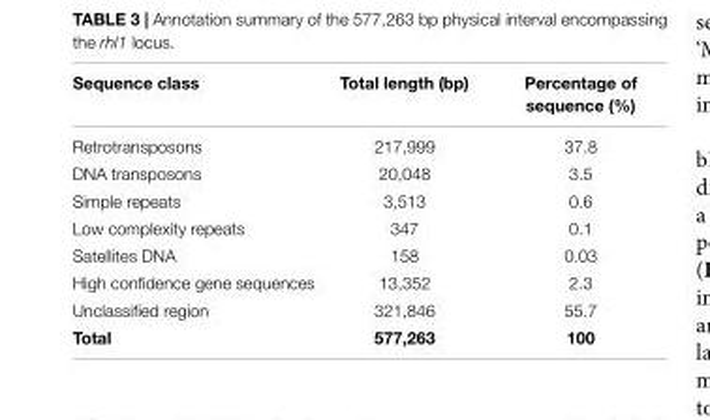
<table><thead><tr><td>Sequence class</td><td>Total length (bp)</td><td>Percentage of sequence (%)</td></tr></thead><tbody><tr><td>Retrotransposons</td><td>217,999</td><td>37.8</td></tr><tr><td>DNA transposons</td><td>20,048</td><td>3.5</td></tr><tr><td>Simple repeats</td><td>3,513</td><td>0.6</td></tr><tr><td>Low complexity repeats</td><td>347</td><td>0.1</td></tr><tr><td>Satellites DNA</td><td>158</td><td>0.03</td></tr><tr><td>High confidence gene sequences</td><td>13,352</td><td>2.3</td></tr><tr><td>Unclassified region</td><td>321,846</td><td>55.7</td></tr><tr><td>Total</td><td>577,263</td><td>100</td></tr></tbody></table>